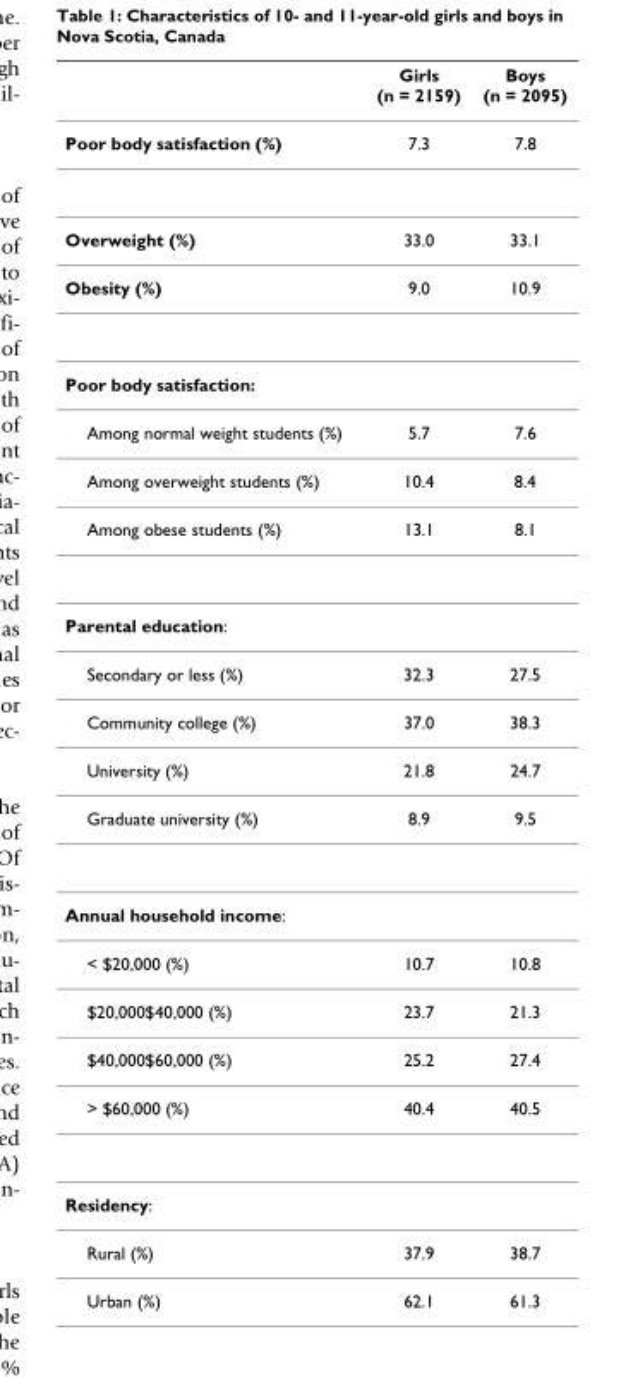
<table><thead><tr><td></td><td>Girls (n = 2159)</td><td>Boys (n = 2095)</td></tr></thead><tbody><tr><td>Poor body satisfaction (%)</td><td>7.3</td><td>7.8</td></tr><tr><td>Overweight (%)</td><td>33.0</td><td>33.1</td></tr><tr><td>Obesity (%)</td><td>9.0</td><td>10.9</td></tr><tr><td colspan="3">Poor body satisfaction:</td></tr><tr><td>Among normal weight students (%)</td><td>5.7</td><td>7.6</td></tr><tr><td>Among overweight students (%)</td><td>10.4</td><td>8.4</td></tr><tr><td>Among obese students (%)</td><td>13.1</td><td>8.1</td></tr><tr><td colspan="3">Parental education:</td></tr><tr><td>Secondary or less (%)</td><td>32.3</td><td>27.5</td></tr><tr><td>Community college (%)</td><td>37.0</td><td>38.3</td></tr><tr><td>University (%)</td><td>21.8</td><td>24.7</td></tr><tr><td>Graduate university (%)</td><td>8.9</td><td>9.5</td></tr><tr><td colspan="3">Annual household income:</td></tr><tr><td>&lt; $20,000 (%)</td><td>10.7</td><td>10.8</td></tr><tr><td>$20,000$40,000 (%)</td><td>23.7</td><td>21.3</td></tr><tr><td>$40,000$60,000 (%)</td><td>25.2</td><td>27.4</td></tr><tr><td>&gt; $60,000 (%)</td><td>40.4</td><td>40.5</td></tr><tr><td colspan="3">Residency:</td></tr><tr><td>Rural (%)</td><td>37.9</td><td>38.7</td></tr><tr><td>Urban (%)</td><td>62.1</td><td>61.3</td></tr></tbody></table>